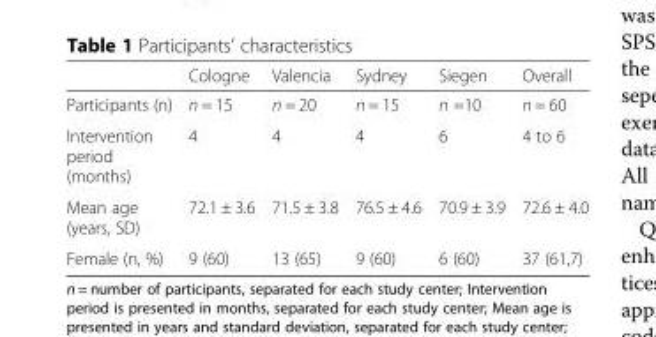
<table><thead><tr><td></td><td>Cologne</td><td>Valencia</td><td>Sydney</td><td>Siegen</td><td>Overall</td></tr></thead><tbody><tr><td>Participants (n)</td><td>n = 15</td><td>n = 20</td><td>n = 15</td><td>n =10</td><td>n = 60</td></tr><tr><td>Intervention period (months)</td><td>4</td><td>4</td><td>4</td><td>6</td><td>4 to 6</td></tr><tr><td>Mean age (years, SD)</td><td>72.1 ± 3.6</td><td>71.5 ± 3.8</td><td>76.5 ± 4.6</td><td>70.9 ± 3.9</td><td>72.6 ± 4.0</td></tr><tr><td>Female (n, %)</td><td>9 (60)</td><td>13 (65)</td><td>9 (60)</td><td>6 (60)</td><td>37 (61,7)</td></tr></tbody></table>